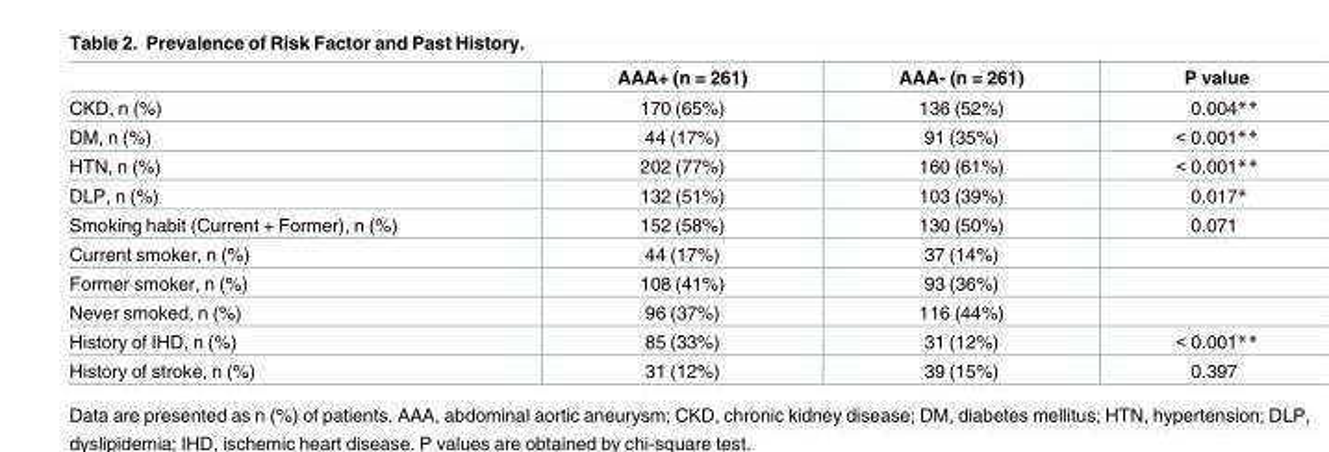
<table><thead><tr><td></td><td>AAA+ (n = 261)</td><td>AAA- (n = 261)</td><td>P value</td></tr></thead><tbody><tr><td>CKD, n (%)</td><td>170 (65%)</td><td>136 (52%)</td><td>0.004**</td></tr><tr><td>DM, n (%)</td><td>44 (17%)</td><td>91 (35%)</td><td>&lt; 0.001**</td></tr><tr><td>HTN, n (%)</td><td>202 (77%)</td><td>160 (61%)</td><td>&lt; 0.001**</td></tr><tr><td>DLP, n (%)</td><td>132 (51%)</td><td>103 (39%)</td><td>0.017*</td></tr><tr><td>Smoking habit (Current + Former), n (%)</td><td>152 (58%)</td><td>130 (50%)</td><td>0.071</td></tr><tr><td>Current smoker, n (%)</td><td>44 (17%)</td><td>37 (14%)</td><td></td></tr><tr><td>Former smoker, n (%)</td><td>108 (41%)</td><td>93 (36%)</td><td></td></tr><tr><td>Never smoked, n (%)</td><td>96 (37%)</td><td>116 (44%)</td><td></td></tr><tr><td>History of IHD, n (%)</td><td>85 (33%)</td><td>31 (12%)</td><td>&lt; 0.001**</td></tr><tr><td>History of stroke, n (%)</td><td>31 (12%)</td><td>39 (15%)</td><td>0.397</td></tr></tbody></table>